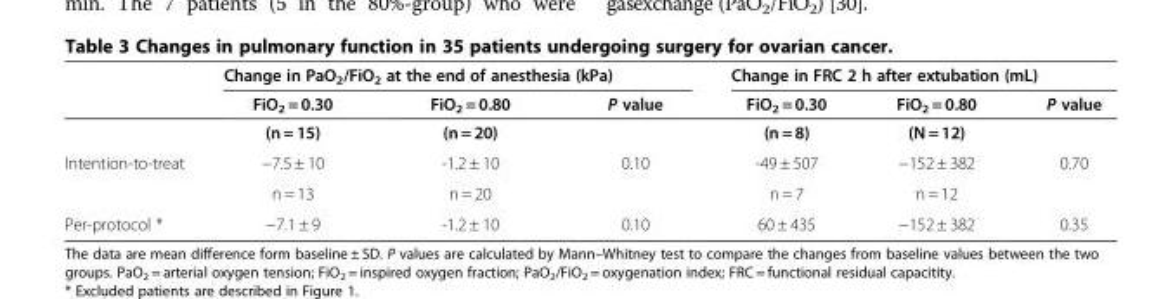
<table><thead><tr><td rowspan="2"></td><td colspan="3">Change in PaO<sub>2</sub>/FiO<sub>2</sub> at the end of anesthesia (kPa)</td><td colspan="3">Change in FRC 2 h after extubation (mL)</td></tr><tr><td>FiO<sub>2</sub> = 0.30</td><td>FiO<sub>2</sub> = 0.80</td><td>P value</td><td>FiO<sub>2</sub> = 0.30</td><td>FiO<sub>2</sub> = 0.80</td><td>P value</td></tr></thead><tbody><tr><td></td><td>(n = 15)</td><td>(n = 20)</td><td></td><td>(n = 8)</td><td>(N = 12)</td><td></td></tr><tr><td rowspan="2">Intention-to-treat</td><td>−7.5 ± 10</td><td>-1.2 ± 10</td><td>0.10</td><td>-49 ± 507</td><td>−152 ± 382</td><td>0.70</td></tr><tr><td>n = 13</td><td>n = 20</td><td></td><td>n = 7</td><td>n = 12</td><td></td></tr><tr><td>Per-protocol *</td><td>−7.1 ± 9</td><td>-1.2 ± 10</td><td>0.10</td><td>60 ± 435</td><td>−152 ± 382</td><td>0.35</td></tr></tbody></table>